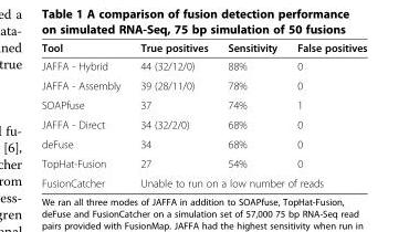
<table><thead><tr><td>Tool</td><td>True positives</td><td>Sensitivity</td><td>False positives</td></tr></thead><tbody><tr><td>JAFFA - Hybrid</td><td>44 (32/12/0)</td><td>88%</td><td>0</td></tr><tr><td>JAFFA - Assembly</td><td>39 (28/11/0)</td><td>78%</td><td>0</td></tr><tr><td>SOAPfuse</td><td>37</td><td>74%</td><td>1</td></tr><tr><td>JAFFA - Direct</td><td>34 (32/2/0)</td><td>68%</td><td>0</td></tr><tr><td>deFuse</td><td>34</td><td>68%</td><td>0</td></tr><tr><td>TopHat-Fusion</td><td>27</td><td>54%</td><td>0</td></tr><tr><td>FusionCatcher</td><td colspan="3">Unable to run on a low number of reads</td></tr></tbody></table>